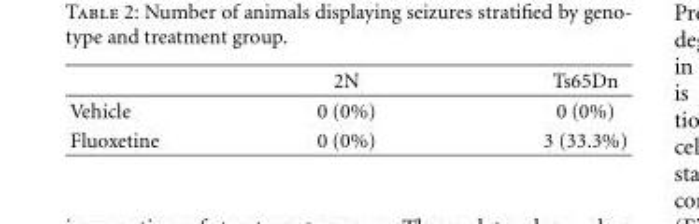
<table><thead><tr><td></td><td>2N</td><td>Ts65Dn</td></tr></thead><tbody><tr><td>Vehicle</td><td>0 (0%)</td><td>0 (0%)</td></tr><tr><td>Fluoxetine</td><td>0 (0%)</td><td>3 (33.3%)</td></tr></tbody></table>